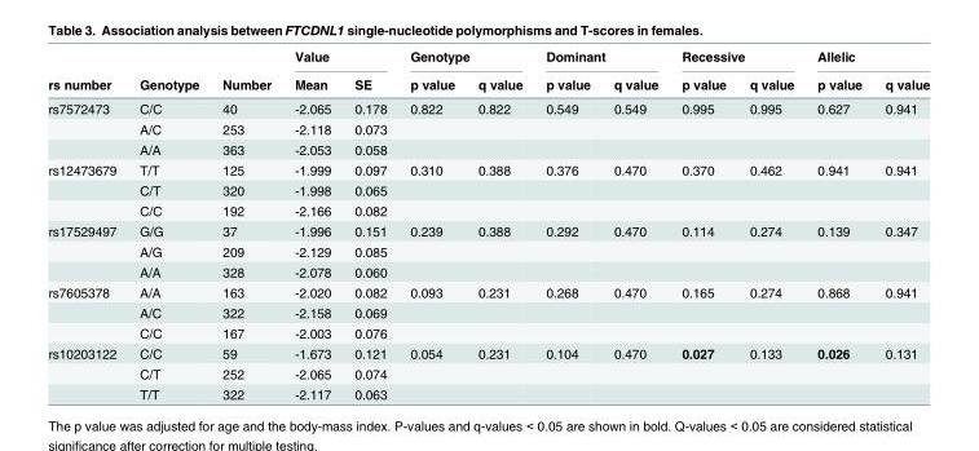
<table><thead><tr><td rowspan="2">rs number</td><td rowspan="2">Genotype</td><td rowspan="2">Number</td><td colspan="2">Value</td><td colspan="2">Genotype</td><td colspan="2">Dominant</td><td colspan="2">Recessive</td><td colspan="2">Allelic</td></tr><tr><td>Mean</td><td>SE</td><td>p value</td><td>q value</td><td>p value</td><td>q value</td><td>p value</td><td>q value</td><td>p value</td><td>q value</td></tr></thead><tbody><tr><td rowspan="3">rs7572473</td><td>C/C</td><td>40</td><td>-2.065</td><td>0.178</td><td>0.822</td><td>0.822</td><td>0.549</td><td>0.549</td><td>0.995</td><td>0.995</td><td>0.627</td><td>0.941</td></tr><tr><td>A/C</td><td>253</td><td>-2.118</td><td>0.073</td><td></td><td></td><td></td><td></td><td></td><td></td><td></td><td></td></tr><tr><td>A/A</td><td>363</td><td>-2.053</td><td>0.058</td><td></td><td></td><td></td><td></td><td></td><td></td><td></td><td></td></tr><tr><td rowspan="3">rs12473679</td><td>T/T</td><td>125</td><td>-1.999</td><td>0.097</td><td>0.310</td><td>0.388</td><td>0.376</td><td>0.470</td><td>0.370</td><td>0.462</td><td>0.941</td><td>0.941</td></tr><tr><td>C/T</td><td>320</td><td>-1.998</td><td>0.065</td><td></td><td></td><td></td><td></td><td></td><td></td><td></td><td></td></tr><tr><td>C/C</td><td>192</td><td>-2.166</td><td>0.082</td><td></td><td></td><td></td><td></td><td></td><td></td><td></td><td></td></tr><tr><td rowspan="3">rs17529497</td><td>G/G</td><td>37</td><td>-1.996</td><td>0.151</td><td>0.239</td><td>0.388</td><td>0.292</td><td>0.470</td><td>0.114</td><td>0.274</td><td>0.139</td><td>0.347</td></tr><tr><td>A/G</td><td>209</td><td>-2.129</td><td>0.085</td><td></td><td></td><td></td><td></td><td></td><td></td><td></td><td></td></tr><tr><td>A/A</td><td>328</td><td>-2.078</td><td>0.060</td><td></td><td></td><td></td><td></td><td></td><td></td><td></td><td></td></tr><tr><td rowspan="3">rs7605378</td><td>A/A</td><td>163</td><td>-2.020</td><td>0.082</td><td>0.093</td><td>0.231</td><td>0.268</td><td>0.470</td><td>0.165</td><td>0.274</td><td>0.868</td><td>0.941</td></tr><tr><td>A/C</td><td>322</td><td>-2.158</td><td>0.069</td><td></td><td></td><td></td><td></td><td></td><td></td><td></td><td></td></tr><tr><td>C/C</td><td>167</td><td>-2.003</td><td>0.076</td><td></td><td></td><td></td><td></td><td></td><td></td><td></td><td></td></tr><tr><td rowspan="3">rs10203122</td><td>C/C</td><td>59</td><td>-1.673</td><td>0.121</td><td>0.054</td><td>0.231</td><td>0.104</td><td>0.470</td><td>0.027</td><td>0.133</td><td>0.026</td><td>0.131</td></tr><tr><td>C/T</td><td>252</td><td>-2.065</td><td>0.074</td><td></td><td></td><td></td><td></td><td></td><td></td><td></td><td></td></tr><tr><td>T/T</td><td>322</td><td>-2.117</td><td>0.063</td><td></td><td></td><td></td><td></td><td></td><td></td><td></td><td></td></tr></tbody></table>